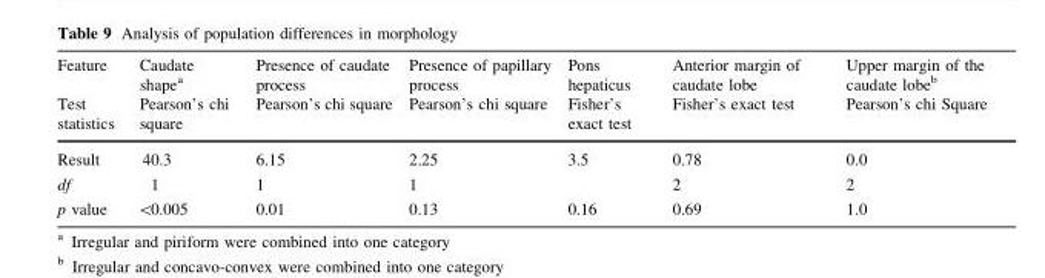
<table><thead><tr><td rowspan="2">Feature Test statistics</td><td rowspan="2">Caudate shapea Pearson’s chi square</td><td rowspan="2">Presence of caudate process Pearson’s chi square</td><td rowspan="2">Presence of papillary process Pearson’s chi square</td><td rowspan="2">Pons hepaticus Fisher’s exact test</td><td rowspan="2">Anterior margin of caudate lobe Fisher’s exact test</td><td rowspan="2">Upper margin of the caudate lobeb Pearson’s chi Square</td></tr><tr></tr></thead><tbody><tr><td>Result</td><td>40.3</td><td>6.15</td><td>2.25</td><td>3.5</td><td>0.78</td><td>0.0</td></tr><tr><td>df</td><td>1</td><td>1</td><td>1</td><td></td><td>2</td><td>2</td></tr><tr><td>p value</td><td>&lt;0.005</td><td>0.01</td><td>0.13</td><td>0.16</td><td>0.69</td><td>1.0</td></tr></tbody></table>